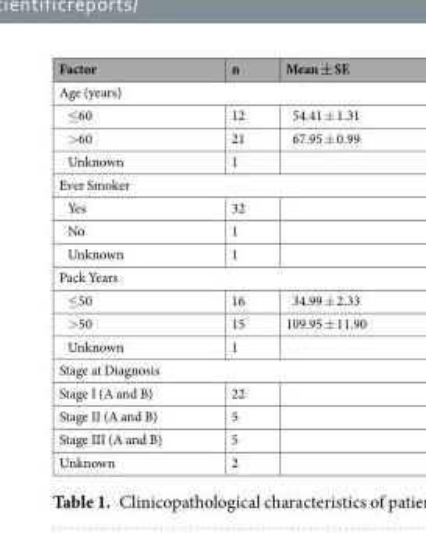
<table><thead><tr><td>Factor</td><td>n</td><td>Mean ± SE</td></tr></thead><tbody><tr><td colspan="3">Age (years)</td></tr><tr><td>≤60</td><td>12</td><td>54.41 ± 1.31</td></tr><tr><td>&gt;60</td><td>21</td><td>67.95 ± 0.99</td></tr><tr><td>Unknown</td><td>1</td><td></td></tr><tr><td colspan="3">Ever Smoker</td></tr><tr><td>Yes</td><td>32</td><td></td></tr><tr><td>No</td><td>1</td><td></td></tr><tr><td>Unknown</td><td>1</td><td></td></tr><tr><td colspan="3">Pack Years</td></tr><tr><td>≤50</td><td>16</td><td>34.99 ± 2.33</td></tr><tr><td>&gt;50</td><td>15</td><td>109.95 ± 11.90</td></tr><tr><td>Unknown</td><td>1</td><td></td></tr><tr><td colspan="3">Stage at Diagnosis</td></tr><tr><td>Stage I (A and B)</td><td>22</td><td></td></tr><tr><td>Stage II (A and B)</td><td>5</td><td></td></tr><tr><td>Stage III (A and B)</td><td>5</td><td></td></tr><tr><td>Unknown</td><td>2</td><td></td></tr></tbody></table>